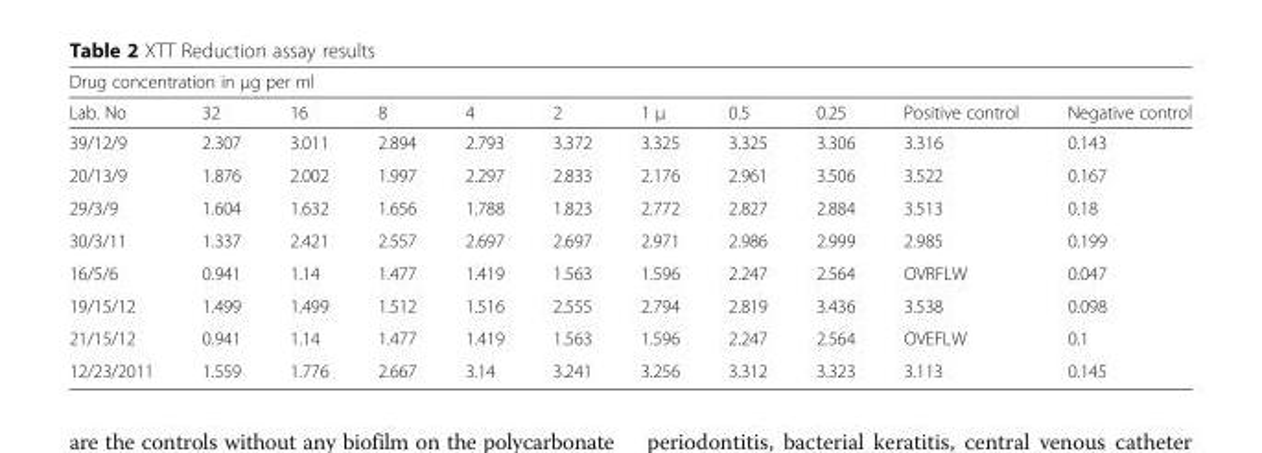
<table><thead><tr><td colspan="11">Drug concentration in μg per ml</td></tr><tr><td>Lab. No</td><td>32</td><td>16</td><td>8</td><td>4</td><td>2</td><td>1 μ</td><td>0.5</td><td>0.25</td><td>Positive control</td><td>Negative control</td></tr></thead><tbody><tr><td>39/12/9</td><td>2.307</td><td>3.011</td><td>2.894</td><td>2.793</td><td>3.372</td><td>3.325</td><td>3.325</td><td>3.306</td><td>3.316</td><td>0.143</td></tr><tr><td>20/13/9</td><td>1.876</td><td>2.002</td><td>1.997</td><td>2.297</td><td>2.833</td><td>2.176</td><td>2.961</td><td>3.506</td><td>3.522</td><td>0.167</td></tr><tr><td>29/3/9</td><td>1.604</td><td>1.632</td><td>1.656</td><td>1.788</td><td>1.823</td><td>2.772</td><td>2.827</td><td>2.884</td><td>3.513</td><td>0.18</td></tr><tr><td>30/3/11</td><td>1.337</td><td>2.421</td><td>2.557</td><td>2.697</td><td>2.697</td><td>2.971</td><td>2.986</td><td>2.999</td><td>2.985</td><td>0.199</td></tr><tr><td>16/5/6</td><td>0.941</td><td>1.14</td><td>1.477</td><td>1.419</td><td>1.563</td><td>1.596</td><td>2.247</td><td>2.564</td><td>OVRFLW</td><td>0.047</td></tr><tr><td>19/15/12</td><td>1.499</td><td>1.499</td><td>1.512</td><td>1.516</td><td>2.555</td><td>2.794</td><td>2.819</td><td>3.436</td><td>3.538</td><td>0.098</td></tr><tr><td>21/15/12</td><td>0.941</td><td>1.14</td><td>1.477</td><td>1.419</td><td>1.563</td><td>1.596</td><td>2.247</td><td>2.564</td><td>OVEFLW</td><td>0.1</td></tr><tr><td>12/23/2011</td><td>1.559</td><td>1.776</td><td>2.667</td><td>3.14</td><td>3.241</td><td>3.256</td><td>3.312</td><td>3.323</td><td>3.113</td><td>0.145</td></tr></tbody></table>